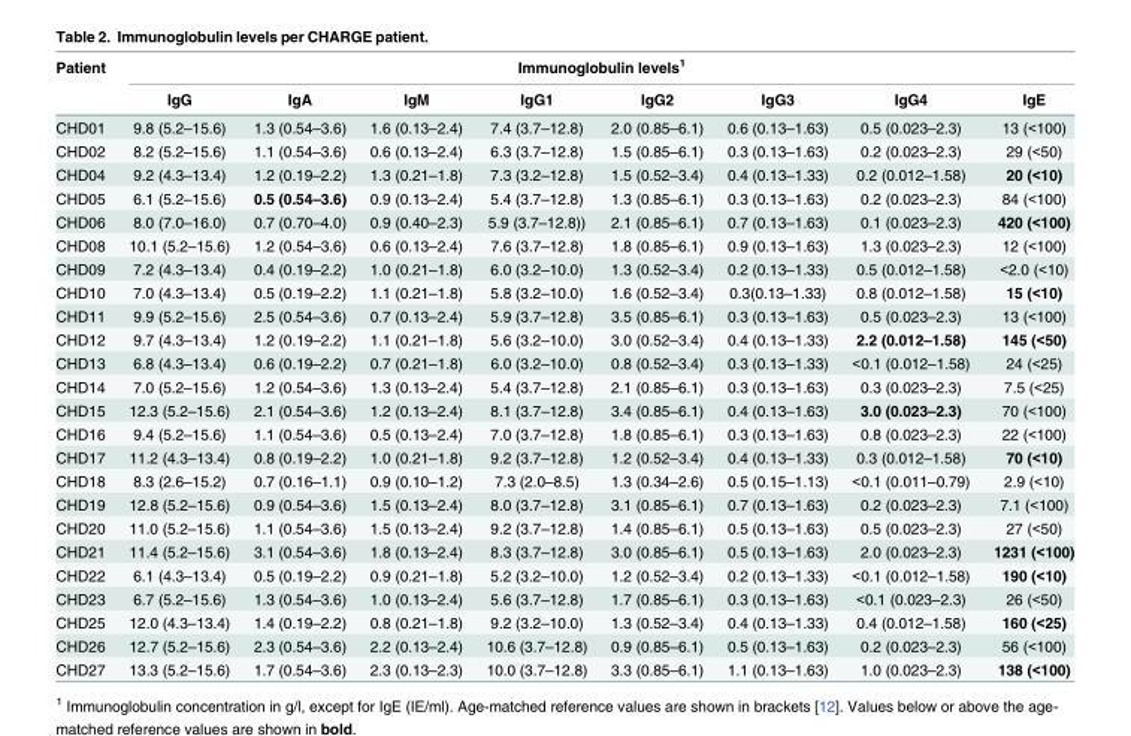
<table><thead><tr><td rowspan="2">Patient</td><td colspan="8">Immunoglobulin levels<sup>1</sup></td></tr><tr><td>IgG</td><td>IgA</td><td>IgM</td><td>IgG1</td><td>IgG2</td><td>IgG3</td><td>IgG4</td><td>IgE</td></tr></thead><tbody><tr><td>CHD01</td><td>9.8 (5.2–15.6)</td><td>1.3 (0.54–3.6)</td><td>1.6 (0.13–2.4)</td><td>7.4 (3.7–12.8)</td><td>2.0 (0.85–6.1)</td><td>0.6 (0.13–1.63)</td><td>0.5 (0.023–2.3)</td><td>13 (&lt;100)</td></tr><tr><td>CHD02</td><td>8.2 (5.2–15.6)</td><td>1.1 (0.54–3.6)</td><td>0.6 (0.13–2.4)</td><td>6.3 (3.7–12.8)</td><td>1.5 (0.85–6.1)</td><td>0.3 (0.13–1.63)</td><td>0.2 (0.023–2.3)</td><td>29 (&lt;50)</td></tr><tr><td>CHD04</td><td>9.2 (4.3–13.4)</td><td>1.2 (0.19–2.2)</td><td>1.3 (0.21–1.8)</td><td>7.3 (3.2–12.8)</td><td>1.5 (0.52–3.4)</td><td>0.4 (0.13–1.33)</td><td>0.2 (0.012–1.58)</td><td>20 (&lt;10)</td></tr><tr><td>CHD05</td><td>6.1 (5.2–15.6)</td><td>0.5 (0.54–3.6)</td><td>0.9 (0.13–2.4)</td><td>5.4 (3.7–12.8)</td><td>1.3 (0.85–6.1)</td><td>0.3 (0.13–1.63)</td><td>0.2 (0.023–2.3)</td><td>84 (&lt;100)</td></tr><tr><td>CHD06</td><td>8.0 (7.0–16.0)</td><td>0.7 (0.70–4.0)</td><td>0.9 (0.40–2.3)</td><td>5.9 (3.7–12.8))</td><td>2.1 (0.85–6.1)</td><td>0.7 (0.13–1.63)</td><td>0.1 (0.023–2.3)</td><td>420 (&lt;100)</td></tr><tr><td>CHD08</td><td>10.1 (5.2–15.6)</td><td>1.2 (0.54–3.6)</td><td>0.6 (0.13–2.4)</td><td>7.6 (3.7–12.8)</td><td>1.8 (0.85–6.1)</td><td>0.9 (0.13–1.63)</td><td>1.3 (0.023–2.3)</td><td>12 (&lt;100)</td></tr><tr><td>CHD09</td><td>7.2 (4.3–13.4)</td><td>0.4 (0.19–2.2)</td><td>1.0 (0.21–1.8)</td><td>6.0 (3.2–10.0)</td><td>1.3 (0.52–3.4)</td><td>0.2 (0.13–1.33)</td><td>0.5 (0.012–1.58)</td><td>&lt;2.0 (&lt;10)</td></tr><tr><td>CHD10</td><td>7.0 (4.3–13.4)</td><td>0.5 (0.19–2.2)</td><td>1.1 (0.21–1.8)</td><td>5.8 (3.2–10.0)</td><td>1.6 (0.52–3.4)</td><td>0.3(0.13–1.33)</td><td>0.8 (0.012–1.58)</td><td>15 (&lt;10)</td></tr><tr><td>CHD11</td><td>9.9 (5.2–15.6)</td><td>2.5 (0.54–3.6)</td><td>0.7 (0.13–2.4)</td><td>5.9 (3.7–12.8)</td><td>3.5 (0.85–6.1)</td><td>0.3 (0.13–1.63)</td><td>0.5 (0.023–2.3)</td><td>13 (&lt;100)</td></tr><tr><td>CHD12</td><td>9.7 (4.3–13.4)</td><td>1.2 (0.19–2.2)</td><td>1.1 (0.21–1.8)</td><td>5.6 (3.2–10.0)</td><td>3.0 (0.52–3.4)</td><td>0.4 (0.13–1.33)</td><td>2.2 (0.012–1.58)</td><td>145 (&lt;50)</td></tr><tr><td>CHD13</td><td>6.8 (4.3–13.4)</td><td>0.6 (0.19–2.2)</td><td>0.7 (0.21–1.8)</td><td>6.0 (3.2–10.0)</td><td>0.8 (0.52–3.4)</td><td>0.3 (0.13–1.33)</td><td>&lt;0.1 (0.012–1.58)</td><td>24 (&lt;25)</td></tr><tr><td>CHD14</td><td>7.0 (5.2–15.6)</td><td>1.2 (0.54–3.6)</td><td>1.3 (0.13–2.4)</td><td>5.4 (3.7–12.8)</td><td>2.1 (0.85–6.1)</td><td>0.3 (0.13–1.63)</td><td>0.3 (0.023–2.3)</td><td>7.5 (&lt;25)</td></tr><tr><td>CHD15</td><td>12.3 (5.2–15.6)</td><td>2.1 (0.54–3.6)</td><td>1.2 (0.13–2.4)</td><td>8.1 (3.7–12.8)</td><td>3.4 (0.85–6.1)</td><td>0.4 (0.13–1.63)</td><td>3.0 (0.023–2.3)</td><td>70 (&lt;100)</td></tr><tr><td>CHD16</td><td>9.4 (5.2–15.6)</td><td>1.1 (0.54–3.6)</td><td>0.5 (0.13–2.4)</td><td>7.0 (3.7–12.8)</td><td>1.8 (0.85–6.1)</td><td>0.3 (0.13–1.63)</td><td>0.8 (0.023–2.3)</td><td>22 (&lt;100)</td></tr><tr><td>CHD17</td><td>11.2 (4.3–13.4)</td><td>0.8 (0.19–2.2)</td><td>1.0 (0.21–1.8)</td><td>9.2 (3.7–12.8)</td><td>1.2 (0.52–3.4)</td><td>0.4 (0.13–1.33)</td><td>0.3 (0.012–1.58)</td><td>70 (&lt;10)</td></tr><tr><td>CHD18</td><td>8.3 (2.6–15.2)</td><td>0.7 (0.16–1.1)</td><td>0.9 (0.10–1.2)</td><td>7.3 (2.0–8.5)</td><td>1.3 (0.34–2.6)</td><td>0.5 (0.15–1.13)</td><td>&lt;0.1 (0.011–0.79)</td><td>2.9 (&lt;10)</td></tr><tr><td>CHD19</td><td>12.8 (5.2–15.6)</td><td>0.9 (0.54–3.6)</td><td>1.5 (0.13–2.4)</td><td>8.0 (3.7–12.8)</td><td>3.1 (0.85–6.1)</td><td>0.7 (0.13–1.63)</td><td>0.2 (0.023–2.3)</td><td>7.1 (&lt;100)</td></tr><tr><td>CHD20</td><td>11.0 (5.2–15.6)</td><td>1.1 (0.54–3.6)</td><td>1.5 (0.13–2.4)</td><td>9.2 (3.7–12.8)</td><td>1.4 (0.85–6.1)</td><td>0.5 (0.13–1.63)</td><td>0.5 (0.023–2.3)</td><td>27 (&lt;50)</td></tr><tr><td>CHD21</td><td>11.4 (5.2–15.6)</td><td>3.1 (0.54–3.6)</td><td>1.8 (0.13–2.4)</td><td>8.3 (3.7–12.8)</td><td>3.0 (0.85–6.1)</td><td>0.5 (0.13–1.63)</td><td>2.0 (0.023–2.3)</td><td>1231 (&lt;100)</td></tr><tr><td>CHD22</td><td>6.1 (4.3–13.4)</td><td>0.5 (0.19–2.2)</td><td>0.9 (0.21–1.8)</td><td>5.2 (3.2–10.0)</td><td>1.2 (0.52–3.4)</td><td>0.2 (0.13–1.33)</td><td>&lt;0.1 (0.012–1.58)</td><td>190 (&lt;10)</td></tr><tr><td>CHD23</td><td>6.7 (5.2–15.6)</td><td>1.3 (0.54–3.6)</td><td>1.0 (0.13–2.4)</td><td>5.6 (3.7–12.8)</td><td>1.7 (0.85–6.1)</td><td>0.3 (0.13–1.63)</td><td>&lt;0.1 (0.023–2.3)</td><td>26 (&lt;50)</td></tr><tr><td>CHD25</td><td>12.0 (4.3–13.4)</td><td>1.4 (0.19–2.2)</td><td>0.8 (0.21–1.8)</td><td>9.2 (3.2–10.0)</td><td>1.3 (0.52–3.4)</td><td>0.4 (0.13–1.33)</td><td>0.4 (0.012–1.58)</td><td>160 (&lt;25)</td></tr><tr><td>CHD26</td><td>12.7 (5.2–15.6)</td><td>2.3 (0.54–3.6)</td><td>2.2 (0.13–2.4)</td><td>10.6 (3.7–12.8)</td><td>0.9 (0.85–6.1)</td><td>0.5 (0.13–1.63)</td><td>0.2 (0.023–2.3)</td><td>56 (&lt;100)</td></tr><tr><td>CHD27</td><td>13.3 (5.2–15.6)</td><td>1.7 (0.54–3.6)</td><td>2.3 (0.13–2.3)</td><td>10.0 (3.7–12.8)</td><td>3.3 (0.85–6.1)</td><td>1.1 (0.13–1.63)</td><td>1.0 (0.023–2.3)</td><td>138 (&lt;100)</td></tr></tbody></table>